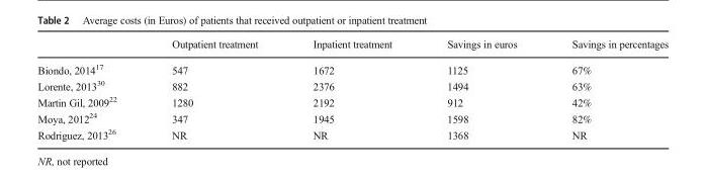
<table><thead><tr><td></td><td>Outpatient treatment</td><td>Inpatient treatment</td><td>Savings in euros</td><td>Savings in percentages</td></tr></thead><tbody><tr><td>Biondo, 2014<sup>17</sup></td><td>547</td><td>1672</td><td>1125</td><td>67%</td></tr><tr><td>Lorente, 2013<sup>30</sup></td><td>882</td><td>2376</td><td>1494</td><td>63%</td></tr><tr><td>Martin Gil, 2009<sup>22</sup></td><td>1280</td><td>2192</td><td>912</td><td>42%</td></tr><tr><td>Moya, 2012<sup>24</sup></td><td>347</td><td>1945</td><td>1598</td><td>82%</td></tr><tr><td>Rodriguez, 2013<sup>26</sup></td><td>NR</td><td>NR</td><td>1368</td><td>NR</td></tr></tbody></table>